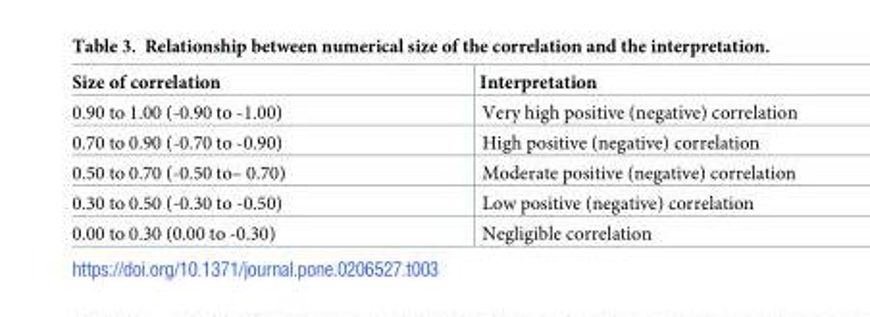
<table><thead><tr><td>Size of correlation</td><td>Interpretation</td></tr></thead><tbody><tr><td>0.90 to 1.00 (-0.90 to -1.00)</td><td>Very high positive (negative) correlation</td></tr><tr><td>0.70 to 0.90 (-0.70 to -0.90)</td><td>High positive (negative) correlation</td></tr><tr><td>0.50 to 0.70 (-0.50 to– 0.70)</td><td>Moderate positive (negative) correlation</td></tr><tr><td>0.30 to 0.50 (-0.30 to -0.50)</td><td>Low positive (negative) correlation</td></tr><tr><td>0.00 to 0.30 (0.00 to -0.30)</td><td>Negligible correlation</td></tr></tbody></table>